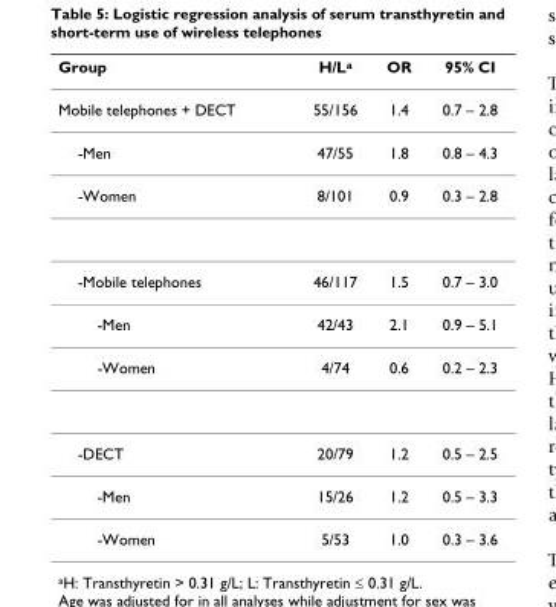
<table><thead><tr><td>Group</td><td>H/La</td><td>OR</td><td>95% CI</td></tr></thead><tbody><tr><td>Mobile telephones + DECT</td><td>55/156</td><td>1.4</td><td>0.7 – 2.8</td></tr><tr><td>-Men</td><td>47/55</td><td>1.8</td><td>0.8 – 4.3</td></tr><tr><td>-Women</td><td>8/101</td><td>0.9</td><td>0.3 – 2.8</td></tr><tr><td>-Mobile telephones</td><td>46/117</td><td>1.5</td><td>0.7 – 3.0</td></tr><tr><td>-Men</td><td>42/43</td><td>2.1</td><td>0.9 – 5.1</td></tr><tr><td>-Women</td><td>4/74</td><td>0.6</td><td>0.2 – 2.3</td></tr><tr><td>-DECT</td><td>20/79</td><td>1.2</td><td>0.5 – 2.5</td></tr><tr><td>-Men</td><td>15/26</td><td>1.2</td><td>0.5 – 3.3</td></tr><tr><td>-Women</td><td>5/53</td><td>1.0</td><td>0.3 – 3.6</td></tr></tbody></table>